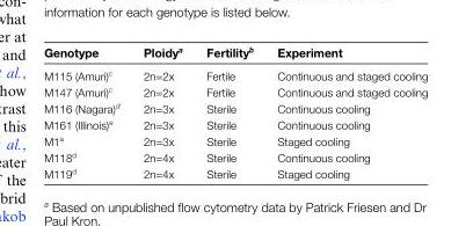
<table><thead><tr><td>Genotype</td><td>Ploidy<sup>a</sup></td><td>Fertility<sup>b</sup></td><td>Experiment</td></tr></thead><tbody><tr><td>M115 (Amuri)<sup>c</sup></td><td>2n=2x</td><td>Fertile</td><td>Continuous and staged cooling</td></tr><tr><td>M147 (Amuri)<sup>c</sup></td><td>2n=2x</td><td>Fertile</td><td>Continuous and staged cooling</td></tr><tr><td>M116 (Nagara)<sup>d</sup></td><td>2n=3x</td><td>Sterile</td><td>Continuous cooling</td></tr><tr><td>M161 (Illinois)<sup>e</sup></td><td>2n=3x</td><td>Sterile</td><td>Continuous cooling</td></tr><tr><td>M1<sup>a</sup></td><td>2n=3x</td><td>Sterile</td><td>Staged cooling</td></tr><tr><td>M118<sup>d</sup></td><td>2n=4x</td><td>Sterile</td><td>Continuous cooling</td></tr><tr><td>M119<sup>d</sup></td><td>2n=4x</td><td>Sterile</td><td>Staged cooling</td></tr></tbody></table>